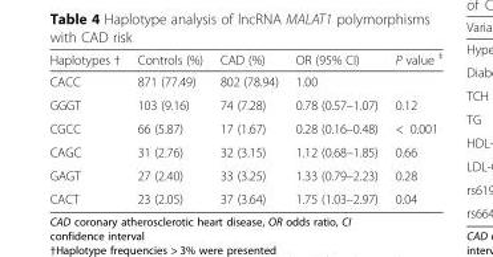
<table><thead><tr><td>Haplotypes †</td><td>Controls (%)</td><td>CAD (%)</td><td>OR (95% CI)</td><td>P value <sup>‡</sup></td></tr></thead><tbody><tr><td>CACC</td><td>871 (77.49)</td><td>802 (78.94)</td><td>1.00</td><td></td></tr><tr><td>GGGT</td><td>103 (9.16)</td><td>74 (7.28)</td><td>0.78 (0.57–1.07)</td><td>0.12</td></tr><tr><td>CGCC</td><td>66 (5.87)</td><td>17 (1.67)</td><td>0.28 (0.16–0.48)</td><td>&lt; 0.001</td></tr><tr><td>CAGC</td><td>31 (2.76)</td><td>32 (3.15)</td><td>1.12 (0.68–1.85)</td><td>0.66</td></tr><tr><td>GAGT</td><td>27 (2.40)</td><td>33 (3.25)</td><td>1.33 (0.79–2.23)</td><td>0.28</td></tr><tr><td>CACT</td><td>23 (2.05)</td><td>37 (3.64)</td><td>1.75 (1.03–2.97)</td><td>0.04</td></tr></tbody></table>